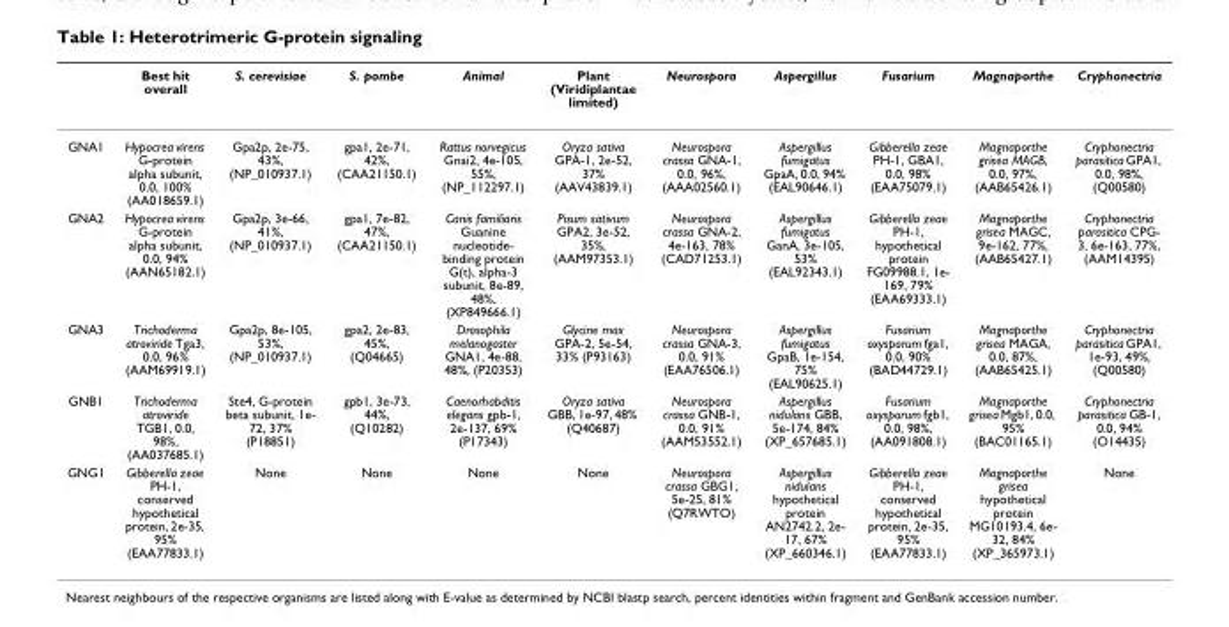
<table><thead><tr><td></td><td>Best hit overall</td><td>S. cerevisiae</td><td>S. pombe</td><td>Animal</td><td>Plant (Viridiplantae limited)</td><td>Neurospora</td><td>Aspergillus</td><td>Fusarium</td><td>Magnaporthe</td><td>Cryphonectria</td></tr></thead><tbody><tr><td>GNA1</td><td>Hypocrea virens G-protein alpha subunit, 0.0, 100% (AA018659.1)</td><td>Gpa2p, 2e-75, 43%, (NP_010937.1)</td><td>gpa1, 2e-71, 42%, (CAA21150.1)</td><td>Rattus norvegicus Gnai2, 4e-105, 55%, (NP_112297.1)</td><td>Oryza sativa GPA-1, 2e-52, 37% (AAV43839.1)</td><td>Neurospora crassa GNA-1, 0.0, 96%, (AAA02560.1)</td><td>Aspergillus fumigatus GpaA, 0.0, 94% (EAL90646.1)</td><td>Gibberella zeae PH-1, GBA1, 0.0, 98% (EAA75079.1)</td><td>Magnaporthe grisea MAGB, 0.0, 97%, (AAB65426.1)</td><td>Cryphonectria parasitica GPA1, 0.0, 98%, (Q00580)</td></tr><tr><td>GNA2</td><td>Hypocrea virens G-protein alpha subunit, 0.0, 94% (AAN65182.1)</td><td>Gpa2p, 3e-66, 41%, (NP_010937.1)</td><td>gpa1, 7e-82, 47%, (CAA21150.1)</td><td>Canis familiaris Guanine nucleotide- binding protein G(t), alpha-3 subunit, 8e-89, 48%, (XP849666.1)</td><td>Pisum sativum GPA2, 3e-52, 35%, (AAM97353.1)</td><td>Neurospora crassa GNA-2, 4e-163, 78% (CAD71253.1)</td><td>Aspergillus fumigatus GanA, 3e-105, 53% (EAL92343.1)</td><td>Gibberella zeae PH-1, hypothetical protein FG09988.1, 1e- 169, 79% (EAA69333.1)</td><td>Magnaporthe grisea MAGC, 9e-162, 77%, (AAB65427.1)</td><td>Cryphonectria parasitica CPG- 3, 6e-163, 77%, (AAM14395)</td></tr><tr><td>GNA3</td><td>Trichoderma atroviride Tga3, 0.0, 96% (AAM69919.1)</td><td>Gpa2p, 8e-105, 53%, (NP_010937.1)</td><td>gpa2, 2e-83, 45%, (Q04665)</td><td>Drosophila melanogaster GNA1, 4e-88, 48%, (P20353)</td><td>Glycine max GPA-2, 5e-54, 33% (P93163)</td><td>Neurospora crassa GNA-3, 0.0, 91% (EAA76506.1)</td><td>Aspergillus fumigatus GpaB, 1e-154, 75% (EAL90625.1)</td><td>Fusarium oxysporum fga1, 0.0, 90% (BAD44729.1)</td><td>Magnaporthe grisea MAGA, 0.0, 87%, (AAB65425.1)</td><td>Cryphonectria parasitica GPA1, 1e-93, 49%, (Q00580)</td></tr><tr><td>GNB1</td><td>Trichoderma atroviride TGB1, 0.0, 98%, (AA037685.1)</td><td>Ste4, G-protein beta subunit, 1e- 72, 37% (P18851)</td><td>gpb1, 3e-73, 44%, (Q10282)</td><td>Caenorhabditis elegans gpb-1, 2e-137, 69% (P17343)</td><td>Oryza sativa GBB, 1e-97, 48% (Q40687)</td><td>Neurospora crassa GNB-1, 0.0, 91% (AAM53552.1)</td><td>Aspergillus nidulans GBB, 5e-174, 84% (XP_657685.1)</td><td>Fusarium oxysporum fgb1, 0.0, 98%, (AA091808.1)</td><td>Magnaporthe grisea Mgb1, 0.0, 95% (BAC01165.1)</td><td>Cryphonectria parasitica GB-1, 0.0, 94% (O14435)</td></tr><tr><td>GNG1</td><td>Gibberella zeae PH-1, conserved hypothetical protein, 2e-35, 95% (EAA77833.1)</td><td>None</td><td>None</td><td>None</td><td>None</td><td>Neurospora crassa GBG1, 5e-25, 81% (Q7RWTO)</td><td>Aspergillus nidulans hypothetical protein AN2742.2, 2e- 17, 67% (XP_660346.1)</td><td>Gibberella zeae PH-1, conserved hypothetical protein, 2e-35, 95% (EAA77833.1)</td><td>Magnaporthe grisea hypothetical protein MG10193.4, 6e- 32, 84% (XP_365973.1)</td><td>None</td></tr></tbody></table>